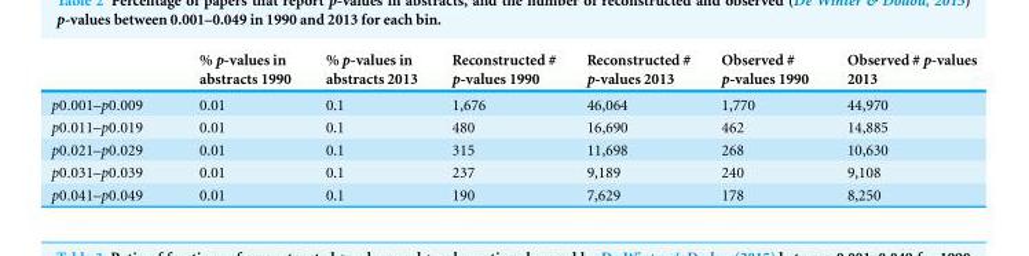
<table><thead><tr><td></td><td>% p-values in abstracts 1990</td><td>% p-values in abstracts 2013</td><td>Reconstructed # p-values 1990</td><td>Reconstructed # p-values 2013</td><td>Observed # p-values 1990</td><td>Observed # p-values 2013</td></tr></thead><tbody><tr><td>p0.001–p0.009</td><td>0.01</td><td>0.1</td><td>1,676</td><td>46,064</td><td>1,770</td><td>44,970</td></tr><tr><td>p0.011–p0.019</td><td>0.01</td><td>0.1</td><td>480</td><td>16,690</td><td>462</td><td>14,885</td></tr><tr><td>p0.021–p0.029</td><td>0.01</td><td>0.1</td><td>315</td><td>11,698</td><td>268</td><td>10,630</td></tr><tr><td>p0.031–p0.039</td><td>0.01</td><td>0.1</td><td>237</td><td>9,189</td><td>240</td><td>9,108</td></tr><tr><td>p0.041–p0.049</td><td>0.01</td><td>0.1</td><td>190</td><td>7,629</td><td>178</td><td>8,250</td></tr></tbody></table>